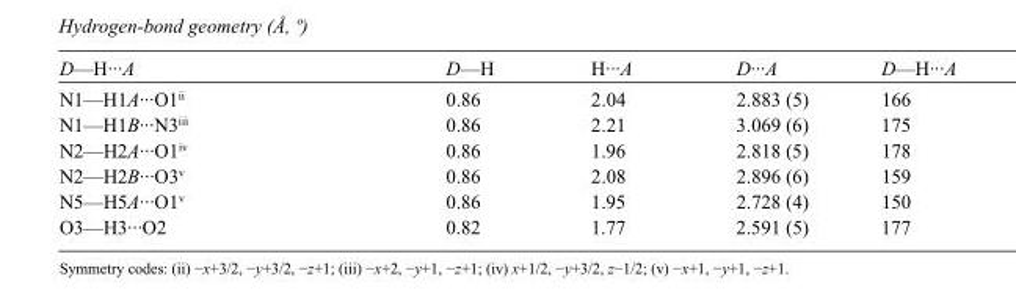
<table><tbody><tr><td>D—H···A</td><td>D—H</td><td>H···A</td><td>D···A</td><td>D—H···A</td></tr><tr><td>N1—H1A···O1<sup>ii</sup></td><td>0.86</td><td>2.04</td><td>2.883 (5)</td><td>166</td></tr><tr><td>N1—H1B···N3<sup>iii</sup></td><td>0.86</td><td>2.21</td><td>3.069 (6)</td><td>175</td></tr><tr><td>N2—H2A···O1<sup>iv</sup></td><td>0.86</td><td>1.96</td><td>2.818 (5)</td><td>178</td></tr><tr><td>N2—H2B···O3<sup>v</sup></td><td>0.86</td><td>2.08</td><td>2.896 (6)</td><td>159</td></tr><tr><td>N5—H5A···O1<sup>v</sup></td><td>0.86</td><td>1.95</td><td>2.728 (4)</td><td>150</td></tr><tr><td>O3—H3···O2</td><td>0.82</td><td>1.77</td><td>2.591 (5)</td><td>177</td></tr></tbody></table>